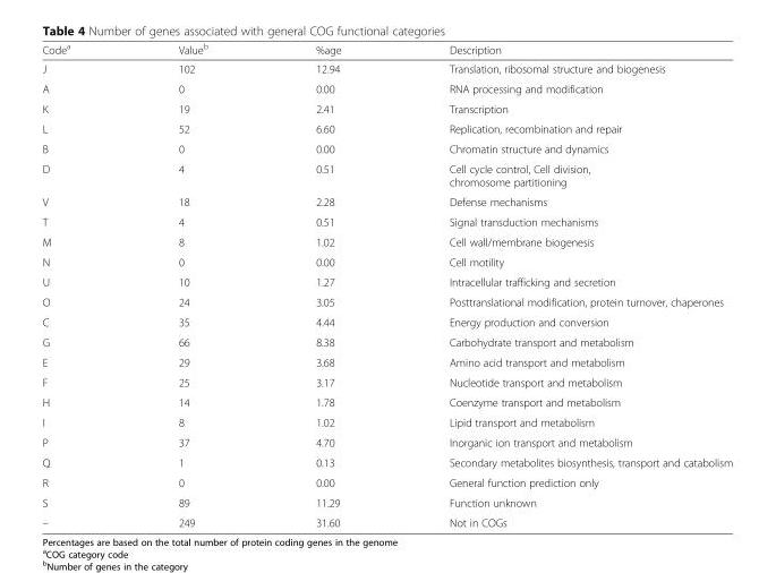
<table><thead><tr><td>Code<sup>a</sup></td><td>Value<sup>b</sup></td><td>%age</td><td>Description</td></tr></thead><tbody><tr><td>J</td><td>102</td><td>12.94</td><td>Translation, ribosomal structure and biogenesis</td></tr><tr><td>A</td><td>0</td><td>0.00</td><td>RNA processing and modification</td></tr><tr><td>K</td><td>19</td><td>2.41</td><td>Transcription</td></tr><tr><td>L</td><td>52</td><td>6.60</td><td>Replication, recombination and repair</td></tr><tr><td>B</td><td>0</td><td>0.00</td><td>Chromatin structure and dynamics</td></tr><tr><td>D</td><td>4</td><td>0.51</td><td>Cell cycle control, Cell division, chromosome partitioning</td></tr><tr><td>V</td><td>18</td><td>2.28</td><td>Defense mechanisms</td></tr><tr><td>T</td><td>4</td><td>0.51</td><td>Signal transduction mechanisms</td></tr><tr><td>M</td><td>8</td><td>1.02</td><td>Cell wall/membrane biogenesis</td></tr><tr><td>N</td><td>0</td><td>0.00</td><td>Cell motility</td></tr><tr><td>U</td><td>10</td><td>1.27</td><td>Intracellular trafficking and secretion</td></tr><tr><td>O</td><td>24</td><td>3.05</td><td>Posttranslational modification, protein turnover, chaperones</td></tr><tr><td>C</td><td>35</td><td>4.44</td><td>Energy production and conversion</td></tr><tr><td>G</td><td>66</td><td>8.38</td><td>Carbohydrate transport and metabolism</td></tr><tr><td>E</td><td>29</td><td>3.68</td><td>Amino acid transport and metabolism</td></tr><tr><td>F</td><td>25</td><td>3.17</td><td>Nucleotide transport and metabolism</td></tr><tr><td>H</td><td>14</td><td>1.78</td><td>Coenzyme transport and metabolism</td></tr><tr><td>I</td><td>8</td><td>1.02</td><td>Lipid transport and metabolism</td></tr><tr><td>P</td><td>37</td><td>4.70</td><td>Inorganic ion transport and metabolism</td></tr><tr><td>Q</td><td>1</td><td>0.13</td><td>Secondary metabolites biosynthesis, transport and catabolism</td></tr><tr><td>R</td><td>0</td><td>0.00</td><td>General function prediction only</td></tr><tr><td>S</td><td>89</td><td>11.29</td><td>Function unknown</td></tr><tr><td>–</td><td>249</td><td>31.60</td><td>Not in COGs</td></tr></tbody></table>